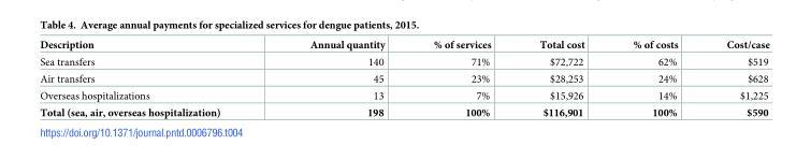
<table><thead><tr><td>Description</td><td>Annual quantity</td><td>% of services</td><td>Total cost</td><td>% of costs</td><td>Cost/case</td></tr></thead><tbody><tr><td>Sea transfers</td><td>140</td><td>71%</td><td>$72,722</td><td>62%</td><td>$519</td></tr><tr><td>Air transfers</td><td>45</td><td>23%</td><td>$28,253</td><td>24%</td><td>$628</td></tr><tr><td>Overseas hospitalizations</td><td>13</td><td>7%</td><td>$15,926</td><td>14%</td><td>$1,225</td></tr><tr><td>Total (sea, air, overseas hospitalization)</td><td>198</td><td>100%</td><td>$116,901</td><td>100%</td><td>$590</td></tr></tbody></table>